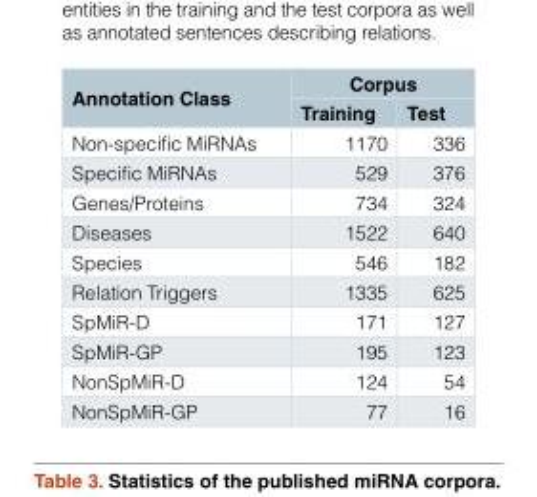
<table><thead><tr><td rowspan="2">Annotation Class</td><td colspan="2">Corpus</td></tr><tr><td>Training</td><td>Test</td></tr></thead><tbody><tr><td>Non-specific MiRNAs</td><td>1170</td><td>336</td></tr><tr><td>Specific MiRNAs</td><td>529</td><td>376</td></tr><tr><td>Genes/Proteins</td><td>734</td><td>324</td></tr><tr><td>Diseases</td><td>1522</td><td>640</td></tr><tr><td>Species</td><td>546</td><td>182</td></tr><tr><td>Relation Triggers</td><td>1335</td><td>625</td></tr><tr><td>SpMiR-D</td><td>171</td><td>127</td></tr><tr><td>SpMiR-GP</td><td>195</td><td>123</td></tr><tr><td>NonSpMiR-D</td><td>124</td><td>54</td></tr><tr><td>NonSpMiR-GP</td><td>77</td><td>16</td></tr></tbody></table>